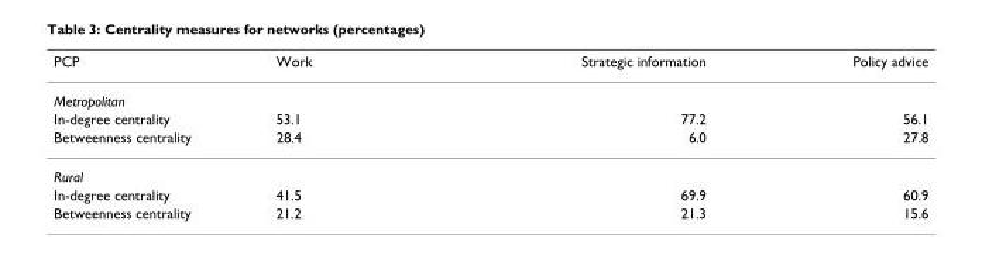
<table><thead><tr><td>PCP</td><td>Work</td><td>Strategic information</td><td>Policy advice</td></tr></thead><tbody><tr><td colspan="4">Metropolitan</td></tr><tr><td>In-degree centrality</td><td>53.1</td><td>77.2</td><td>56.1</td></tr><tr><td>Betweenness centrality</td><td>28.4</td><td>6.0</td><td>27.8</td></tr><tr><td colspan="4">Rural</td></tr><tr><td>In-degree centrality</td><td>41.5</td><td>69.9</td><td>60.9</td></tr><tr><td>Betweenness centrality</td><td>21.2</td><td>21.3</td><td>15.6</td></tr></tbody></table>